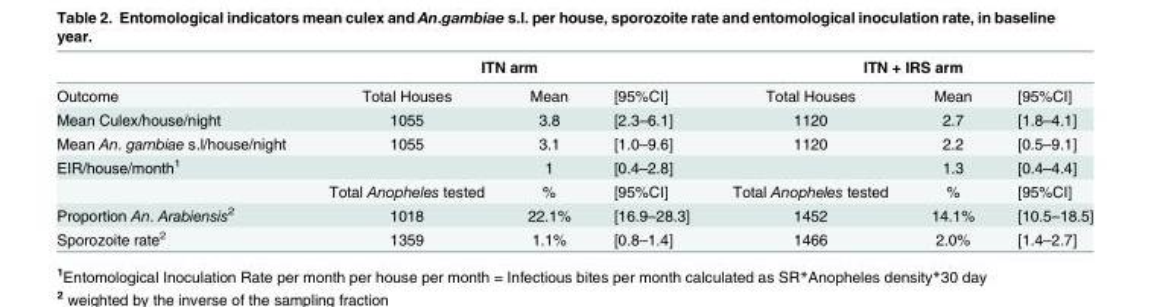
<table><thead><tr><td rowspan="2">Outcome</td><td colspan="3">ITN arm</td><td colspan="3">ITN + IRS arm</td></tr><tr><td>Total Houses</td><td>Mean</td><td>[95%CI]</td><td>Total Houses</td><td>Mean</td><td>[95%CI]</td></tr></thead><tbody><tr><td>Mean Culex/house/night</td><td>1055</td><td>3.8</td><td>[2.3–6.1]</td><td>1120</td><td>2.7</td><td>[1.8–4.1]</td></tr><tr><td>Mean An. gambiae s.l/house/night</td><td>1055</td><td>3.1</td><td>[1.0–9.6]</td><td>1120</td><td>2.2</td><td>[0.5–9.1]</td></tr><tr><td rowspan="2">EIR/house/month<sup>1</sup></td><td></td><td>1</td><td>[0.4–2.8]</td><td></td><td>1.3</td><td>[0.4–4.4]</td></tr><tr><td>Total Anopheles tested</td><td>%</td><td>[95%CI]</td><td>Total Anopheles tested</td><td>%</td><td>[95%CI]</td></tr><tr><td>Proportion An. Arabiensis<sup>2</sup></td><td>1018</td><td>22.1%</td><td>[16.9–28.3]</td><td>1452</td><td>14.1%</td><td>[10.5–18.5]</td></tr><tr><td>Sporozoite rate<sup>2</sup></td><td>1359</td><td>1.1%</td><td>[0.8–1.4]</td><td>1466</td><td>2.0%</td><td>[1.4–2.7]</td></tr></tbody></table>